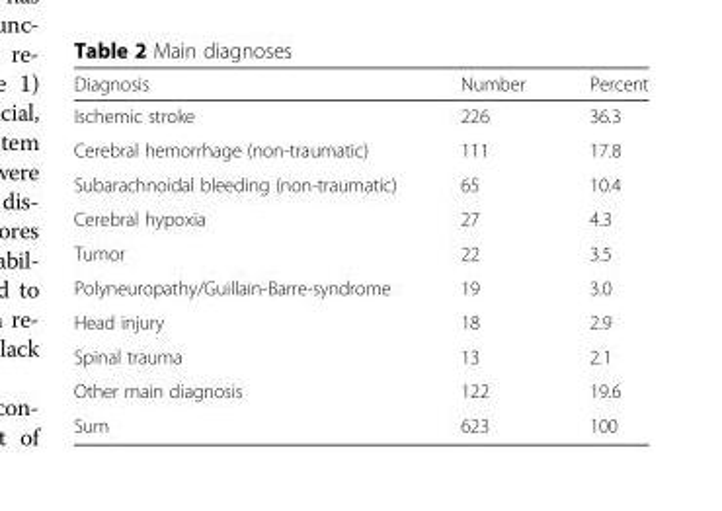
<table><thead><tr><td>Diagnosis</td><td>Number</td><td>Percent</td></tr></thead><tbody><tr><td>Ischemic stroke</td><td>226</td><td>36.3</td></tr><tr><td>Cerebral hemorrhage (non-traumatic)</td><td>111</td><td>17.8</td></tr><tr><td>Subarachnoidal bleeding (non-traumatic)</td><td>65</td><td>10.4</td></tr><tr><td>Cerebral hypoxia</td><td>27</td><td>4.3</td></tr><tr><td>Tumor</td><td>22</td><td>3.5</td></tr><tr><td>Polyneuropathy/Guillain-Barre-syndrome</td><td>19</td><td>3.0</td></tr><tr><td>Head injury</td><td>18</td><td>2.9</td></tr><tr><td>Spinal trauma</td><td>13</td><td>2.1</td></tr><tr><td>Other main diagnosis</td><td>122</td><td>19.6</td></tr><tr><td>Sum</td><td>623</td><td>100</td></tr></tbody></table>